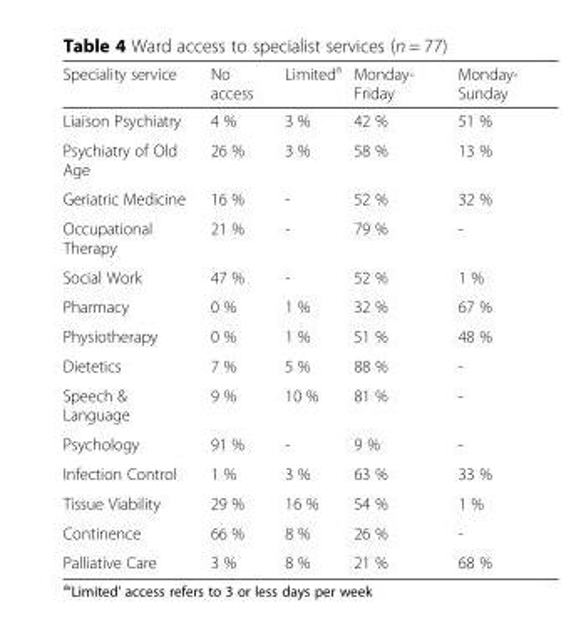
<table><thead><tr><td>Speciality service</td><td>No access</td><td>Limited<sup>a</sup></td><td>Monday- Friday</td><td>Monday- Sunday</td></tr></thead><tbody><tr><td>Liaison Psychiatry</td><td>4 %</td><td>3 %</td><td>42 %</td><td>51 %</td></tr><tr><td>Psychiatry of Old Age</td><td>26 %</td><td>3 %</td><td>58 %</td><td>13 %</td></tr><tr><td>Geriatric Medicine</td><td>16 %</td><td>-</td><td>52 %</td><td>32 %</td></tr><tr><td>Occupational Therapy</td><td>21 %</td><td>-</td><td>79 %</td><td>-</td></tr><tr><td>Social Work</td><td>47 %</td><td>-</td><td>52 %</td><td>1 %</td></tr><tr><td>Pharmacy</td><td>0 %</td><td>1 %</td><td>32 %</td><td>67 %</td></tr><tr><td>Physiotherapy</td><td>0 %</td><td>1 %</td><td>51 %</td><td>48 %</td></tr><tr><td>Dietetics</td><td>7 %</td><td>5 %</td><td>88 %</td><td>-</td></tr><tr><td>Speech &amp; Language</td><td>9 %</td><td>10 %</td><td>81 %</td><td>-</td></tr><tr><td>Psychology</td><td>91 %</td><td>-</td><td>9 %</td><td>-</td></tr><tr><td>Infection Control</td><td>1 %</td><td>3 %</td><td>63 %</td><td>33 %</td></tr><tr><td>Tissue Viability</td><td>29 %</td><td>16 %</td><td>54 %</td><td>1 %</td></tr><tr><td>Continence</td><td>66 %</td><td>8 %</td><td>26 %</td><td>-</td></tr><tr><td>Palliative Care</td><td>3 %</td><td>8 %</td><td>21 %</td><td>68 %</td></tr></tbody></table>